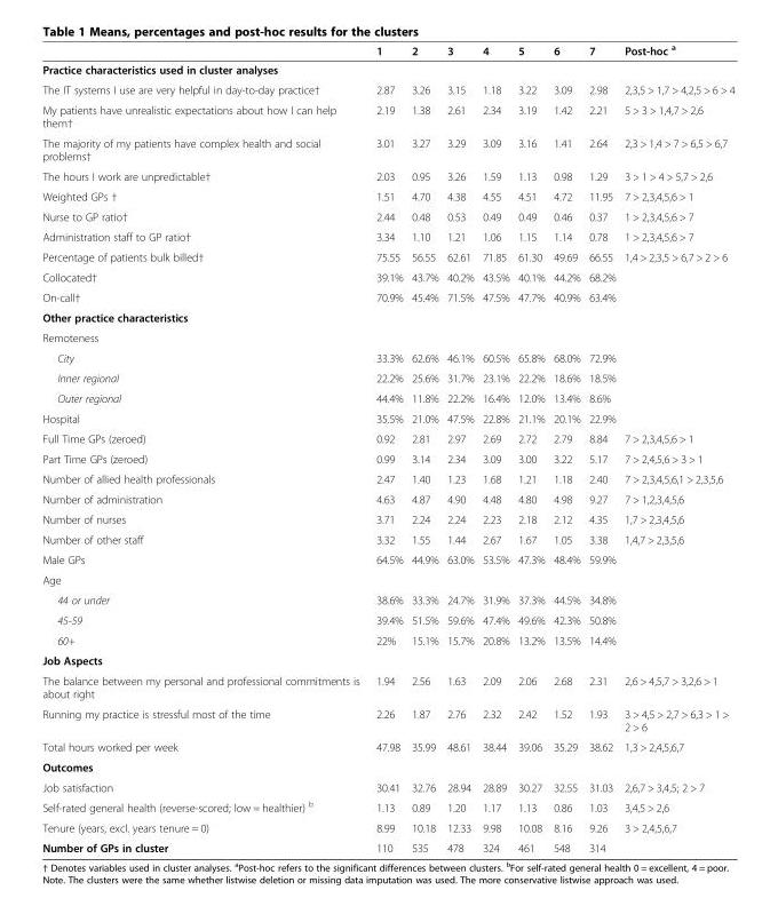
<table><thead><tr><td></td><td>1</td><td>2</td><td>3</td><td>4</td><td>5</td><td>6</td><td>7</td><td>Post-hoc <sup>a</sup></td></tr></thead><tbody><tr><td colspan="9">Practice characteristics used in cluster analyses</td></tr><tr><td>The IT systems I use are very helpful in day-to-day practice†</td><td>2.87</td><td>3.26</td><td>3.15</td><td>1.18</td><td>3.22</td><td>3.09</td><td>2.98</td><td>2,3,5 &gt; 1,7 &gt; 4,2,5 &gt; 6 &gt; 4</td></tr><tr><td>My patients have unrealistic expectations about how I can help them†</td><td>2.19</td><td>1.38</td><td>2.61</td><td>2.34</td><td>3.19</td><td>1.42</td><td>2.21</td><td>5 &gt; 3 &gt; 1,4,7 &gt; 2,6</td></tr><tr><td>The majority of my patients have complex health and social problems†</td><td>3.01</td><td>3.27</td><td>3.29</td><td>3.09</td><td>3.16</td><td>1.41</td><td>2.64</td><td>2,3 &gt; 1,4 &gt; 7 &gt; 6,5 &gt; 6,7</td></tr><tr><td>The hours I work are unpredictable†</td><td>2.03</td><td>0.95</td><td>3.26</td><td>1.59</td><td>1.13</td><td>0.98</td><td>1.29</td><td>3 &gt; 1 &gt; 4 &gt; 5,7 &gt; 2,6</td></tr><tr><td>Weighted GPs †</td><td>1.51</td><td>4.70</td><td>4.38</td><td>4.55</td><td>4.51</td><td>4.72</td><td>11.95</td><td>7 &gt; 2,3,4,5,6 &gt; 1</td></tr><tr><td>Nurse to GP ratio†</td><td>2.44</td><td>0.48</td><td>0.53</td><td>0.49</td><td>0.49</td><td>0.46</td><td>0.37</td><td>1 &gt; 2,3,4,5,6 &gt; 7</td></tr><tr><td>Administration staff to GP ratio†</td><td>3.34</td><td>1.10</td><td>1.21</td><td>1.06</td><td>1.15</td><td>1.14</td><td>0.78</td><td>1 &gt; 2,3,4,5,6 &gt; 7</td></tr><tr><td>Percentage of patients bulk billed†</td><td>75.55</td><td>56.55</td><td>62.61</td><td>71.85</td><td>61.30</td><td>49.69</td><td>66.55</td><td rowspan="3">1,4 &gt; 2,3,5 &gt; 6,7 &gt; 2 &gt; 6</td></tr><tr><td>Collocated†</td><td>39.1%</td><td>43.7%</td><td>40.2%</td><td>43.5%</td><td>40.1%</td><td>44.2%</td><td>68.2%</td></tr><tr><td>On-call†</td><td>70.9%</td><td>45.4%</td><td>71.5%</td><td>47.5%</td><td>47.7%</td><td>40.9%</td><td>63.4%</td></tr><tr><td colspan="9">Other practice characteristics</td></tr><tr><td colspan="9">Remoteness</td></tr><tr><td>City</td><td>33.3%</td><td>62.6%</td><td>46.1%</td><td>60.5%</td><td>65.8%</td><td>68.0%</td><td>72.9%</td><td></td></tr><tr><td>Inner regional</td><td>22.2%</td><td>25.6%</td><td>31.7%</td><td>23.1%</td><td>22.2%</td><td>18.6%</td><td>18.5%</td><td></td></tr><tr><td>Outer regional</td><td>44.4%</td><td>11.8%</td><td>22.2%</td><td>16.4%</td><td>12.0%</td><td>13.4%</td><td>8.6%</td><td></td></tr><tr><td>Hospital</td><td>35.5%</td><td>21.0%</td><td>47.5%</td><td>22.8%</td><td>21.1%</td><td>20.1%</td><td>22.9%</td><td></td></tr><tr><td>Full Time GPs (zeroed)</td><td>0.92</td><td>2.81</td><td>2.97</td><td>2.69</td><td>2.72</td><td>2.79</td><td>8.84</td><td>7 &gt; 2,3,4,5,6 &gt; 1</td></tr><tr><td>Part Time GPs (zeroed)</td><td>0.99</td><td>3.14</td><td>2.34</td><td>3.09</td><td>3.00</td><td>3.22</td><td>5.17</td><td>7 &gt; 2,4,5,6 &gt; 3 &gt; 1</td></tr><tr><td>Number of allied health professionals</td><td>2.47</td><td>1.40</td><td>1.23</td><td>1.68</td><td>1.21</td><td>1.18</td><td>2.40</td><td>7 &gt; 2,3,4,5,6,1 &gt; 2,3,5,6</td></tr><tr><td>Number of administration</td><td>4.63</td><td>4.87</td><td>4.90</td><td>4.48</td><td>4.80</td><td>4.98</td><td>9.27</td><td>7 &gt; 1,2,3,4,5,6</td></tr><tr><td>Number of nurses</td><td>3.71</td><td>2.24</td><td>2.24</td><td>2.23</td><td>2.18</td><td>2.12</td><td>4.35</td><td>1,7 &gt; 2,3,4,5,6</td></tr><tr><td>Number of other staff</td><td>3.32</td><td>1.55</td><td>1.44</td><td>2.67</td><td>1.67</td><td>1.05</td><td>3.38</td><td rowspan="2">1,4,7 &gt; 2,3,5,6</td></tr><tr><td>Male GPs</td><td>64.5%</td><td>44.9%</td><td>63.0%</td><td>53.5%</td><td>47.3%</td><td>48.4%</td><td>59.9%</td></tr><tr><td colspan="9">Age</td></tr><tr><td>44 or under</td><td>38.6%</td><td>33.3%</td><td>24.7%</td><td>31.9%</td><td>37.3%</td><td>44.5%</td><td>34.8%</td><td></td></tr><tr><td>45-59</td><td>39.4%</td><td>51.5%</td><td>59.6%</td><td>47.4%</td><td>49.6%</td><td>42.3%</td><td>50.8%</td><td></td></tr><tr><td>60+</td><td>22%</td><td>15.1%</td><td>15.7%</td><td>20.8%</td><td>13.2%</td><td>13.5%</td><td>14.4%</td><td></td></tr><tr><td colspan="9">Job Aspects</td></tr><tr><td>The balance between my personal and professional commitments is about right</td><td>1.94</td><td>2.56</td><td>1.63</td><td>2.09</td><td>2.06</td><td>2.68</td><td>2.31</td><td>2,6 &gt; 4,5,7 &gt; 3,2,6 &gt; 1</td></tr><tr><td>Running my practice is stressful most of the time</td><td>2.26</td><td>1.87</td><td>2.76</td><td>2.32</td><td>2.42</td><td>1.52</td><td>1.93</td><td>3 &gt; 4,5 &gt; 2,7 &gt; 6,3 &gt; 1 &gt; 2 &gt; 6</td></tr><tr><td>Total hours worked per week</td><td>47.98</td><td>35.99</td><td>48.61</td><td>38.44</td><td>39.06</td><td>35.29</td><td>38.62</td><td>1,3 &gt; 2,4,5,6,7</td></tr><tr><td colspan="9">Outcomes</td></tr><tr><td>Job satisfaction</td><td>30.41</td><td>32.76</td><td>28.94</td><td>28.89</td><td>30.27</td><td>32.55</td><td>31.03</td><td>2,6,7 &gt; 3,4,5; 2 &gt; 7</td></tr><tr><td>Self-rated general health (reverse-scored; low = healthier) <sup>b</sup></td><td>1.13</td><td>0.89</td><td>1.20</td><td>1.17</td><td>1.13</td><td>0.86</td><td>1.03</td><td>3,4,5 &gt; 2,6</td></tr><tr><td>Tenure (years, excl. years tenure = 0)</td><td>8.99</td><td>10.18</td><td>12.33</td><td>9.98</td><td>10.08</td><td>8.16</td><td>9.26</td><td>3 &gt; 2,4,5,6,7</td></tr><tr><td>Number of GPs in cluster</td><td>110</td><td>535</td><td>478</td><td>324</td><td>461</td><td>548</td><td>314</td><td></td></tr></tbody></table>